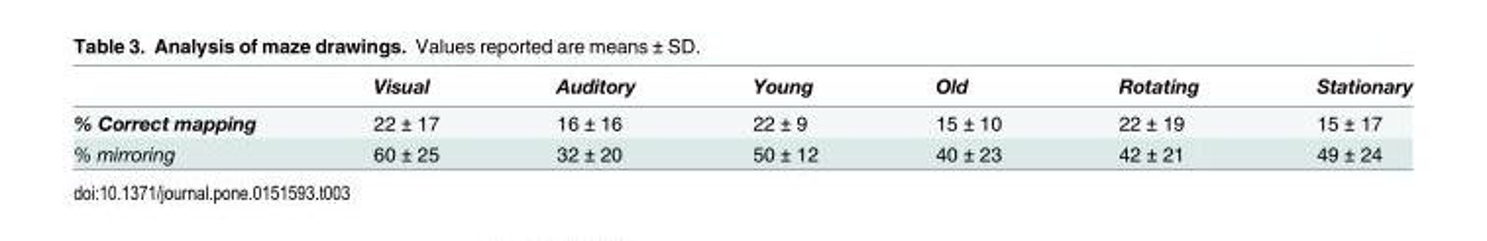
<table><thead><tr><td></td><td>Visual</td><td>Auditory</td><td>Young</td><td>Old</td><td>Rotating</td><td>Stationary</td></tr></thead><tbody><tr><td>% Correct mapping</td><td>22 ± 17</td><td>16 ± 16</td><td>22 ± 9</td><td>15 ± 10</td><td>22 ± 19</td><td>15 ± 17</td></tr><tr><td>% mirroring</td><td>60 ± 25</td><td>32 ± 20</td><td>50 ± 12</td><td>40 ± 23</td><td>42 ± 21</td><td>49 ± 24</td></tr></tbody></table>